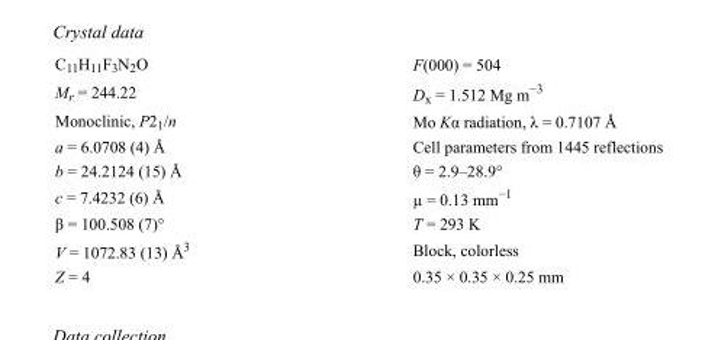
<table><tbody><tr><td>C<sub>11</sub>H<sub>11</sub>F<sub>3</sub>N<sub>2</sub>O</td><td>F(000) = 504</td></tr><tr><td>M<sub>r</sub> = 244.22</td><td>D<sub>x</sub> = 1.512 Mg m<sup>−3</sup></td></tr><tr><td>Monoclinic, P2<sub>1</sub>/n</td><td>Mo Kα radiation, λ = 0.7107 Å</td></tr><tr><td>a = 6.0708 (4) Å</td><td>Cell parameters from 1445 reflections</td></tr><tr><td>b = 24.2124 (15) Å</td><td>θ = 2.9–28.9°</td></tr><tr><td>c = 7.4232 (6) Å</td><td>µ = 0.13 mm<sup>−1</sup></td></tr><tr><td>β = 100.508 (7)°</td><td>T = 293 K</td></tr><tr><td>V = 1072.83 (13) Å<sup>3</sup></td><td>Block, colorless</td></tr><tr><td>Z = 4</td><td>0.35 × 0.35 × 0.25 mm</td></tr></tbody></table>